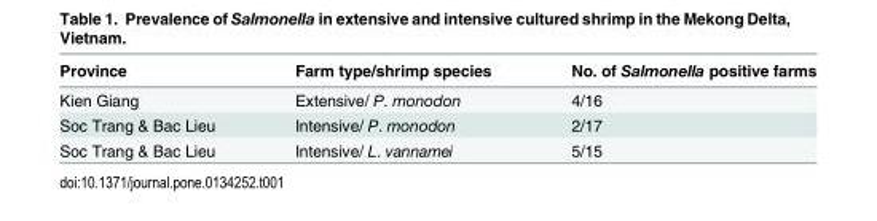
<table><thead><tr><td>Province</td><td>Farm type/shrimp species</td><td>No. of Salmonella positive farms</td></tr></thead><tbody><tr><td>Kien Giang</td><td>Extensive/ P. monodon</td><td>4/16</td></tr><tr><td>Soc Trang &amp; Bac Lieu</td><td>Intensive/ P. monodon</td><td>2/17</td></tr><tr><td>Soc Trang &amp; Bac Lieu</td><td>Intensive/ L. vannamei</td><td>5/15</td></tr></tbody></table>